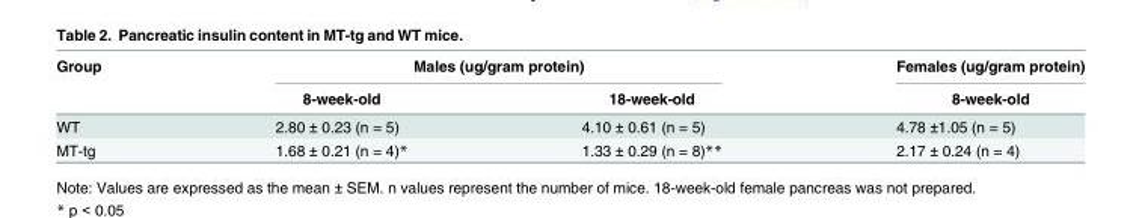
<table><thead><tr><td rowspan="2">Group</td><td colspan="2">Males (ug/gram protein)</td><td rowspan="2">Females (ug/gram protein) 8-week-old</td></tr><tr><td>8-week-old</td><td>18-week-old</td></tr></thead><tbody><tr><td>WT</td><td>2.80 ± 0.23 (n = 5)</td><td>4.10 ± 0.61 (n = 5)</td><td>4.78 ±1.05 (n = 5)</td></tr><tr><td>MT-tg</td><td>1.68 ± 0.21 (n = 4)*</td><td>1.33 ± 0.29 (n = 8)**</td><td>2.17 ± 0.24 (n = 4)</td></tr></tbody></table>